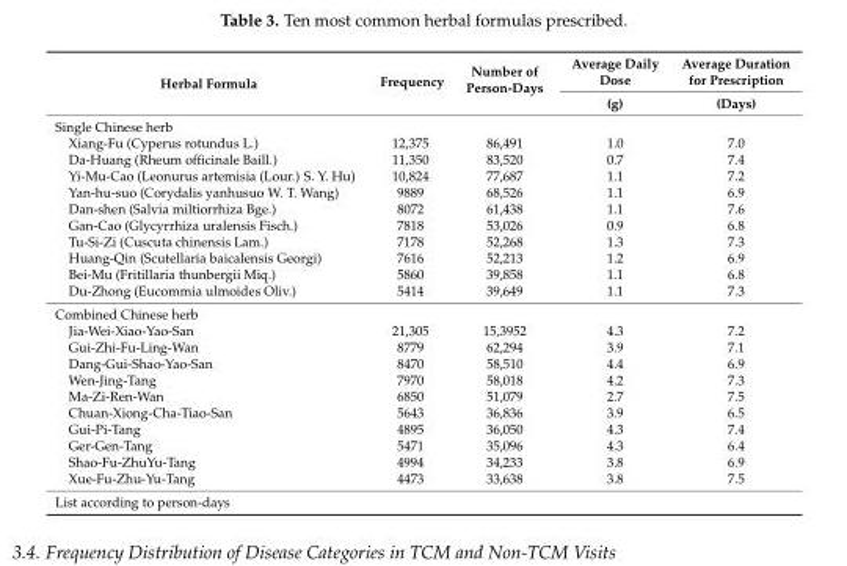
<table><thead><tr><td rowspan="2">Herbal Formula</td><td rowspan="2">Frequency</td><td rowspan="2">Number of Person-Days</td><td rowspan="2">Average Daily Dose (g)</td><td rowspan="2">Average Duration for Prescription (Days)</td></tr><tr></tr></thead><tbody><tr><td colspan="5">Single Chinese herb</td></tr><tr><td>Xiang-Fu (Cyperus rotundus L.)</td><td>12,375</td><td>86,491</td><td>1.0</td><td>7.0</td></tr><tr><td>Da-Huang (Rheum officinale Baill.)</td><td>11,350</td><td>83,520</td><td>0.7</td><td>7.4</td></tr><tr><td>Yi-Mu-Cao (Leonurus artemisia (Lour.) S. Y. Hu)</td><td>10,824</td><td>77,687</td><td>1.1</td><td>7.2</td></tr><tr><td>Yan-hu-suo (Corydalis yanhusuo W. T. Wang)</td><td>9889</td><td>68,526</td><td>1.1</td><td>6.9</td></tr><tr><td>Dan-shen (Salvia miltiorrhiza Bge.)</td><td>8072</td><td>61,438</td><td>1.1</td><td>7.6</td></tr><tr><td>Gan-Cao (Glycyrrhiza uralensis Fisch.)</td><td>7818</td><td>53,026</td><td>0.9</td><td>6.8</td></tr><tr><td>Tu-Si-Zi (Cuscuta chinensis Lam.)</td><td>7178</td><td>52,268</td><td>1.3</td><td>7.3</td></tr><tr><td>Huang-Qin (Scutellaria baicalensis Georgi)</td><td>7616</td><td>52,213</td><td>1.2</td><td>6.9</td></tr><tr><td>Bei-Mu (Fritillaria thunbergii Miq.)</td><td>5860</td><td>39,858</td><td>1.1</td><td>6.8</td></tr><tr><td>Du-Zhong (Eucommia ulmoides Oliv.)</td><td>5414</td><td>39,649</td><td>1.1</td><td>7.3</td></tr><tr><td colspan="5">Combined Chinese herb</td></tr><tr><td>Jia-Wei-Xiao-Yao-San</td><td>21,305</td><td>15,3952</td><td>4.3</td><td>7.2</td></tr><tr><td>Gui-Zhi-Fu-Ling-Wan</td><td>8779</td><td>62,294</td><td>3.9</td><td>7.1</td></tr><tr><td>Dang-Gui-Shao-Yao-San</td><td>8470</td><td>58,510</td><td>4.4</td><td>6.9</td></tr><tr><td>Wen-Jing-Tang</td><td>7970</td><td>58,018</td><td>4.2</td><td>7.3</td></tr><tr><td>Ma-Zi-Ren-Wan</td><td>6850</td><td>51,079</td><td>2.7</td><td>7.5</td></tr><tr><td>Chuan-Xiong-Cha-Tiao-San</td><td>5643</td><td>36,836</td><td>3.9</td><td>6.5</td></tr><tr><td>Gui-Pi-Tang</td><td>4895</td><td>36,050</td><td>4.3</td><td>7.4</td></tr><tr><td>Ger-Gen-Tang</td><td>5471</td><td>35,096</td><td>4.3</td><td>6.4</td></tr><tr><td>Shao-Fu-ZhuYu-Tang</td><td>4994</td><td>34,233</td><td>3.8</td><td>6.9</td></tr><tr><td>Xue-Fu-Zhu-Yu-Tang</td><td>4473</td><td>33,638</td><td>3.8</td><td>7.5</td></tr><tr><td>List according to person-days</td><td></td><td></td><td></td><td></td></tr></tbody></table>